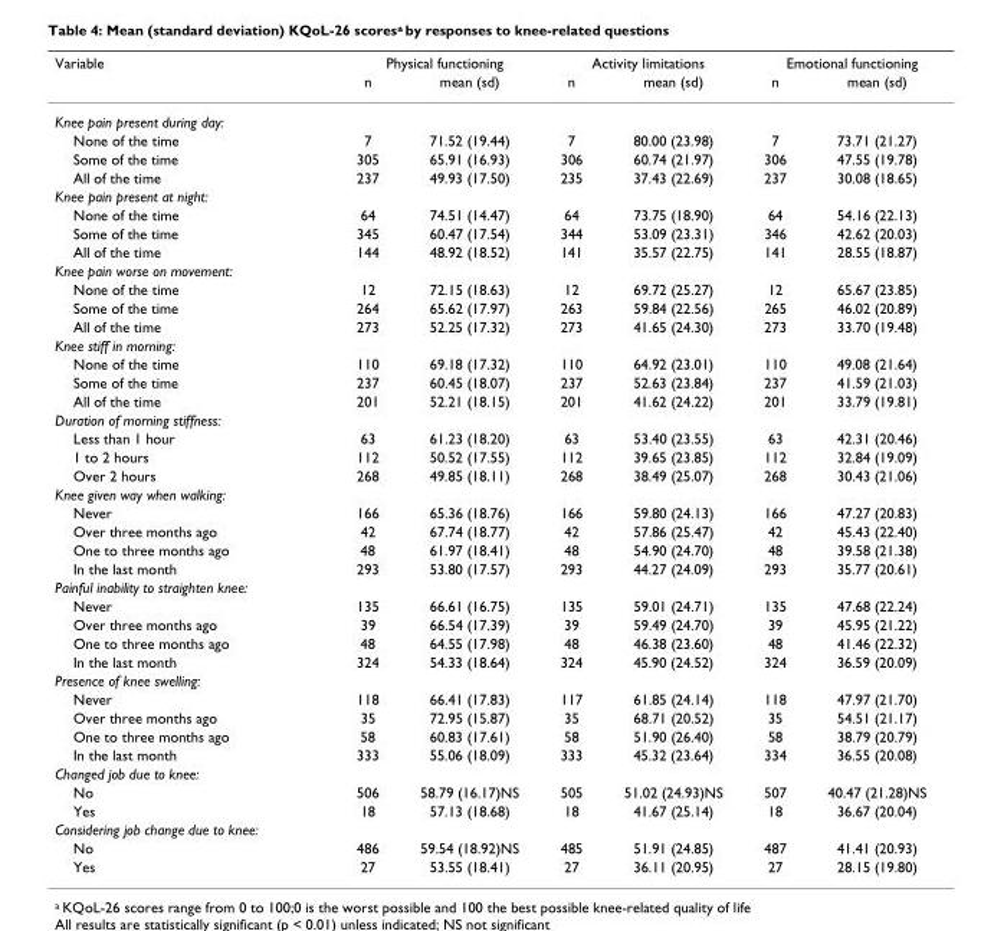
<table><thead><tr><td rowspan="2">Variable</td><td colspan="2">Physical functioning</td><td colspan="2">Activity limitations</td><td colspan="2">Emotional functioning</td></tr><tr><td>n</td><td>mean (sd)</td><td>n</td><td>mean (sd)</td><td>n</td><td>mean (sd)</td></tr></thead><tbody><tr><td colspan="7">Knee pain present during day:</td></tr><tr><td>None of the time</td><td>7</td><td>71.52 (19.44)</td><td>7</td><td>80.00 (23.98)</td><td>7</td><td>73.71 (21.27)</td></tr><tr><td>Some of the time</td><td>305</td><td>65.91 (16.93)</td><td>306</td><td>60.74 (21.97)</td><td>306</td><td>47.55 (19.78)</td></tr><tr><td>All of the time</td><td>237</td><td>49.93 (17.50)</td><td>235</td><td>37.43 (22.69)</td><td>237</td><td>30.08 (18.65)</td></tr><tr><td colspan="7">Knee pain present at night:</td></tr><tr><td>None of the time</td><td>64</td><td>74.51 (14.47)</td><td>64</td><td>73.75 (18.90)</td><td>64</td><td>54.16 (22.13)</td></tr><tr><td>Some of the time</td><td>345</td><td>60.47 (17.54)</td><td>344</td><td>53.09 (23.31)</td><td>346</td><td>42.62 (20.03)</td></tr><tr><td>All of the time</td><td>144</td><td>48.92 (18.52)</td><td>141</td><td>35.57 (22.75)</td><td>141</td><td>28.55 (18.87)</td></tr><tr><td colspan="7">Knee pain worse on movement:</td></tr><tr><td>None of the time</td><td>12</td><td>72.15 (18.63)</td><td>12</td><td>69.72 (25.27)</td><td>12</td><td>65.67 (23.85)</td></tr><tr><td>Some of the time</td><td>264</td><td>65.62 (17.97)</td><td>263</td><td>59.84 (22.56)</td><td>265</td><td>46.02 (20.89)</td></tr><tr><td>All of the time</td><td>273</td><td>52.25 (17.32)</td><td>273</td><td>41.65 (24.30)</td><td>273</td><td>33.70 (19.48)</td></tr><tr><td colspan="7">Knee stiff in morning:</td></tr><tr><td>None of the time</td><td>110</td><td>69.18 (17.32)</td><td>110</td><td>64.92 (23.01)</td><td>110</td><td>49.08 (21.64)</td></tr><tr><td>Some of the time</td><td>237</td><td>60.45 (18.07)</td><td>237</td><td>52.63 (23.84)</td><td>237</td><td>41.59 (21.03)</td></tr><tr><td>All of the time</td><td>201</td><td>52.21 (18.15)</td><td>201</td><td>41.62 (24.22)</td><td>201</td><td>33.79 (19.81)</td></tr><tr><td colspan="7">Duration of morning stiffness:</td></tr><tr><td>Less than 1 hour</td><td>63</td><td>61.23 (18.20)</td><td>63</td><td>53.40 (23.55)</td><td>63</td><td>42.31 (20.46)</td></tr><tr><td>1 to 2 hours</td><td>112</td><td>50.52 (17.55)</td><td>112</td><td>39.65 (23.85)</td><td>112</td><td>32.84 (19.09)</td></tr><tr><td>Over 2 hours</td><td>268</td><td>49.85 (18.11)</td><td>268</td><td>38.49 (25.07)</td><td>268</td><td>30.43 (21.06)</td></tr><tr><td colspan="7">Knee given way when walking:</td></tr><tr><td>Never</td><td>166</td><td>65.36 (18.76)</td><td>166</td><td>59.80 (24.13)</td><td>166</td><td>47.27 (20.83)</td></tr><tr><td>Over three months ago</td><td>42</td><td>67.74 (18.77)</td><td>42</td><td>57.86 (25.47)</td><td>42</td><td>45.43 (22.40)</td></tr><tr><td>One to three months ago</td><td>48</td><td>61.97 (18.41)</td><td>48</td><td>54.90 (24.70)</td><td>48</td><td>39.58 (21.38)</td></tr><tr><td>In the last month</td><td>293</td><td>53.80 (17.57)</td><td>293</td><td>44.27 (24.09)</td><td>293</td><td>35.77 (20.61)</td></tr><tr><td colspan="7">Painful inability to straighten knee:</td></tr><tr><td>Never</td><td>135</td><td>66.61 (16.75)</td><td>135</td><td>59.01 (24.71)</td><td>135</td><td>47.68 (22.24)</td></tr><tr><td>Over three months ago</td><td>39</td><td>66.54 (17.39)</td><td>39</td><td>59.49 (24.70)</td><td>39</td><td>45.95 (21.22)</td></tr><tr><td>One to three months ago</td><td>48</td><td>64.55 (17.98)</td><td>48</td><td>46.38 (23.60)</td><td>48</td><td>41.46 (22.32)</td></tr><tr><td>In the last month</td><td>324</td><td>54.33 (18.64)</td><td>324</td><td>45.90 (24.52)</td><td>324</td><td>36.59 (20.09)</td></tr><tr><td colspan="7">Presence of knee swelling:</td></tr><tr><td>Never</td><td>118</td><td>66.41 (17.83)</td><td>117</td><td>61.85 (24.14)</td><td>118</td><td>47.97 (21.70)</td></tr><tr><td>Over three months ago</td><td>35</td><td>72.95 (15.87)</td><td>35</td><td>68.71 (20.52)</td><td>35</td><td>54.51 (21.17)</td></tr><tr><td>One to three months ago</td><td>58</td><td>60.83 (17.61)</td><td>58</td><td>51.90 (26.40)</td><td>58</td><td>38.79 (20.79)</td></tr><tr><td>In the last month</td><td>333</td><td>55.06 (18.09)</td><td>333</td><td>45.32 (23.64)</td><td>334</td><td>36.55 (20.08)</td></tr><tr><td colspan="7">Changed job due to knee:</td></tr><tr><td>No</td><td>506</td><td>58.79 (16.17)NS</td><td>505</td><td>51.02 (24.93)NS</td><td>507</td><td>40.47 (21.28)NS</td></tr><tr><td>Yes</td><td>18</td><td>57.13 (18.68)</td><td>18</td><td>41.67 (25.14)</td><td>18</td><td>36.67 (20.04)</td></tr><tr><td colspan="7">Considering job change due to knee:</td></tr><tr><td>No</td><td>486</td><td>59.54 (18.92)NS</td><td>485</td><td>51.91 (24.85)</td><td>487</td><td>41.41 (20.93)</td></tr><tr><td>Yes</td><td>27</td><td>53.55 (18.41)</td><td>27</td><td>36.11 (20.95)</td><td>27</td><td>28.15 (19.80)</td></tr></tbody></table>